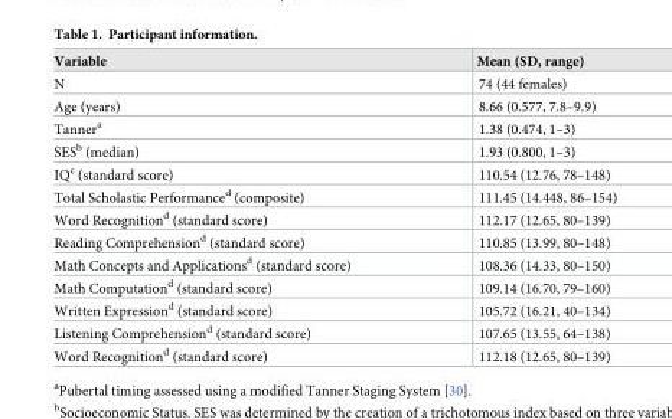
<table><thead><tr><td>Variable</td><td>Mean (SD, range)</td></tr></thead><tbody><tr><td>N</td><td>74 (44 females)</td></tr><tr><td>Age (years)</td><td>8.66 (0.577, 7.8–9.9)</td></tr><tr><td>Tanner<sup>a</sup></td><td>1.38 (0.474, 1–3)</td></tr><tr><td>SES<sup>b</sup> (median)</td><td>1.93 (0.800, 1–3)</td></tr><tr><td>IQ<sup>c</sup> (standard score)</td><td>110.54 (12.76, 78–148)</td></tr><tr><td>Total Scholastic Performance<sup>d</sup> (composite)</td><td>111.45 (14.448, 86–154)</td></tr><tr><td>Word Recognition<sup>d</sup> (standard score)</td><td>112.17 (12.65, 80–139)</td></tr><tr><td>Reading Comprehension<sup>d</sup> (standard score)</td><td>110.85 (13.99, 80–148)</td></tr><tr><td>Math Concepts and Applications<sup>d</sup> (standard score)</td><td>108.36 (14.33, 80–150)</td></tr><tr><td>Math Computation<sup>d</sup> (standard score)</td><td>109.14 (16.70, 79–160)</td></tr><tr><td>Written Expression<sup>d</sup> (standard score)</td><td>105.72 (16.21, 40–134)</td></tr><tr><td>Listening Comprehension<sup>d</sup> (standard score)</td><td>107.65 (13.55, 64–138)</td></tr><tr><td>Word Recognition<sup>d</sup> (standard score)</td><td>112.18 (12.65, 80–139)</td></tr></tbody></table>